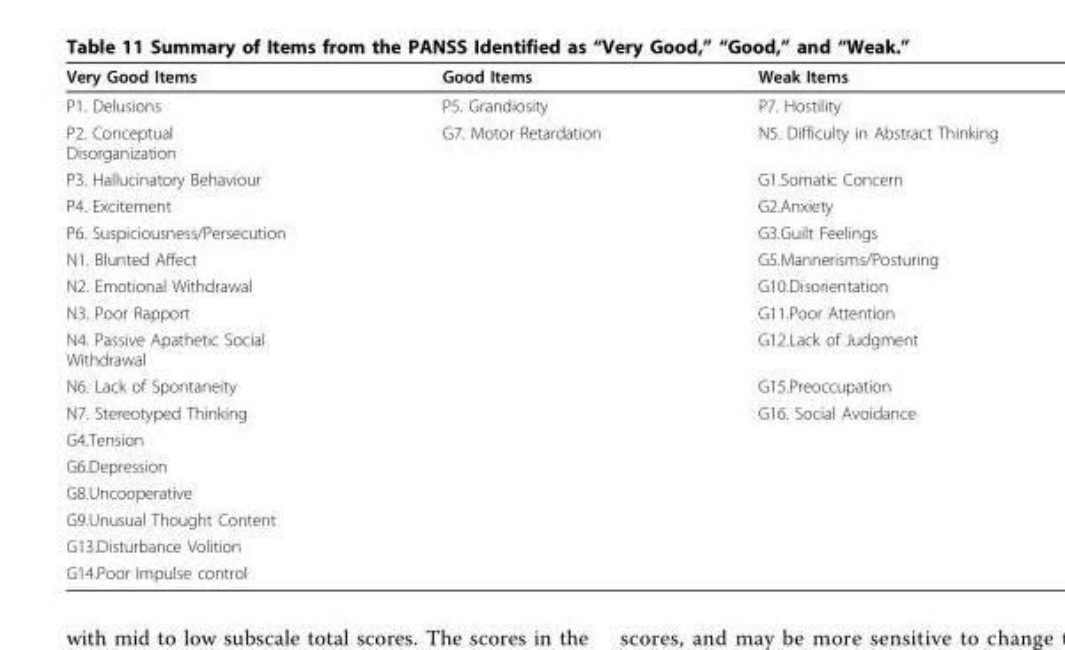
<table><thead><tr><td>Very Good Items</td><td>Good Items</td><td>Weak Items</td></tr></thead><tbody><tr><td>P1. Delusions</td><td>P5. Grandiosity</td><td>P7. Hostility</td></tr><tr><td>P2. Conceptual Disorganization</td><td>G7. Motor Retardation</td><td>N5. Difficulty in Abstract Thinking</td></tr><tr><td>P3. Hallucinatory Behaviour</td><td></td><td>G1.Somatic Concern</td></tr><tr><td>P4. Excitement</td><td></td><td>G2.Anxiety</td></tr><tr><td>P6. Suspiciousness/Persecution</td><td></td><td>G3.Guilt Feelings</td></tr><tr><td>N1. Blunted Affect</td><td></td><td>G5.Mannerisms/Posturing</td></tr><tr><td>N2. Emotional Withdrawal</td><td></td><td>G10.Disorientation</td></tr><tr><td>N3. Poor Rapport</td><td></td><td>G11.Poor Attention</td></tr><tr><td>N4. Passive Apathetic Social Withdrawal</td><td></td><td>G12.Lack of Judgment</td></tr><tr><td>N6. Lack of Spontaneity</td><td></td><td>G15.Preoccupation</td></tr><tr><td>N7. Stereotyped Thinking</td><td></td><td>G16. Social Avoidance</td></tr><tr><td colspan="3">G4.Tension</td></tr><tr><td colspan="3">G6.Depression</td></tr><tr><td colspan="3">G8.Uncooperative</td></tr><tr><td colspan="3">G9.Unusual Thought Content</td></tr><tr><td colspan="3">G13.Disturbance Volition</td></tr><tr><td>G14.Poor Impulse control</td><td></td><td></td></tr></tbody></table>